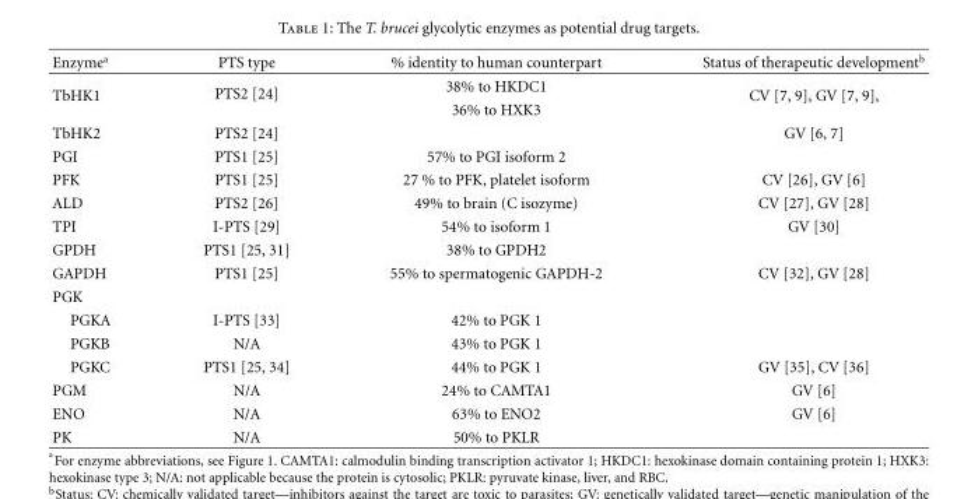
<table><thead><tr><td>Enzyme<sup>a</sup></td><td>PTS type</td><td>% identity to human counterpart</td><td>Status of therapeutic development<sup>b</sup></td></tr></thead><tbody><tr><td rowspan="2">TbHK1</td><td rowspan="2">PTS2 [24]</td><td>38% to HKDC1</td><td rowspan="2">CV [7, 9], GV [7, 9],</td></tr><tr><td>36% to HXK3</td></tr><tr><td>TbHK2</td><td>PTS2 [24]</td><td></td><td>GV [6, 7]</td></tr><tr><td>PGI</td><td>PTS1 [25]</td><td>57% to PGI isoform 2</td><td></td></tr><tr><td>PFK</td><td>PTS1 [25]</td><td>27 % to PFK, platelet isoform</td><td>CV [26], GV [6]</td></tr><tr><td>ALD</td><td>PTS2 [26]</td><td>49% to brain (C isozyme)</td><td>CV [27], GV [28]</td></tr><tr><td>TPI</td><td>I-PTS [29]</td><td>54% to isoform 1</td><td>GV [30]</td></tr><tr><td>GPDH</td><td>PTS1 [25, 31]</td><td>38% to GPDH2</td><td></td></tr><tr><td>GAPDH</td><td>PTS1 [25]</td><td>55% to spermatogenic GAPDH-2</td><td>CV [32], GV [28]</td></tr><tr><td colspan="4">PGK</td></tr><tr><td>PGKA</td><td>I-PTS [33]</td><td>42% to PGK 1</td><td></td></tr><tr><td>PGKB</td><td>N/A</td><td>43% to PGK 1</td><td></td></tr><tr><td>PGKC</td><td>PTS1 [25, 34]</td><td>44% to PGK 1</td><td>GV [35], CV [36]</td></tr><tr><td>PGM</td><td>N/A</td><td>24% to CAMTA1</td><td>GV [6]</td></tr><tr><td>ENO</td><td>N/A</td><td>63% to ENO2</td><td>GV [6]</td></tr><tr><td>PK</td><td>N/A</td><td>50% to PKLR</td><td></td></tr></tbody></table>